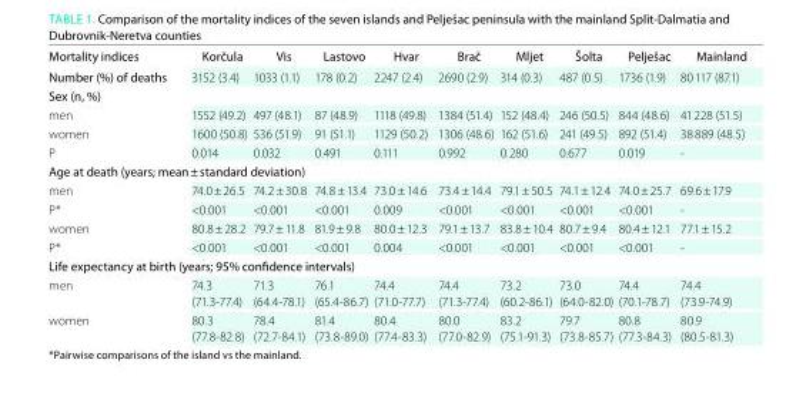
<table><thead><tr><td>Mortality indices</td><td>Korčula</td><td>Vis</td><td>lastovo</td><td>hvar</td><td>brač</td><td>Mljet</td><td>Šolta</td><td>Pelješac</td><td>Mainland</td></tr></thead><tbody><tr><td>number (%) of deaths</td><td>3152 (3.4)</td><td>1033 (1.1)</td><td>178 (0.2)</td><td>2247 (2.4)</td><td>2690 (2.9)</td><td>314 (0.3)</td><td>487 (0.5)</td><td>1736 (1.9)</td><td>80 117 (87.1)</td></tr><tr><td colspan="10">Sex (n, %)</td></tr><tr><td>men</td><td>1552 (49.2)</td><td>497 (48.1)</td><td>87 (48.9)</td><td>1118 (49.8)</td><td>1384 (51.4)</td><td>152 (48.4)</td><td>246 (50.5)</td><td>844 (48.6)</td><td>41 228 (51.5)</td></tr><tr><td>women</td><td>1600 (50.8)</td><td>536 (51.9)</td><td>91 (51.1)</td><td>1129 (50.2)</td><td>1306 (48.6)</td><td>162 (51.6)</td><td>241 (49.5)</td><td>892 (51.4)</td><td>38 889 (48.5)</td></tr><tr><td>P</td><td>0.014</td><td>0.032</td><td>0.491</td><td>0.111</td><td>0.992</td><td>0.280</td><td>0.677</td><td>0.019</td><td>-</td></tr><tr><td colspan="10">Age at death (years; mean ± standard deviation)</td></tr><tr><td>men</td><td>74.0 ± 26.5</td><td>74.2 ± 30.8</td><td>74.8 ± 13.4</td><td>73.0 ± 14.6</td><td>73.4 ± 14.4</td><td>79.1 ± 50.5</td><td>74.1 ± 12.4</td><td>74.0 ± 25.7</td><td>69.6 ± 17.9</td></tr><tr><td>P*</td><td>&lt;0.001</td><td>&lt;0.001</td><td>&lt;0.001</td><td>0.009</td><td>&lt;0.001</td><td>&lt;0.001</td><td>&lt;0.001</td><td>&lt;0.001</td><td>-</td></tr><tr><td>women</td><td>80.8 ± 28.2</td><td>79.7 ± 11.8</td><td>81.9 ± 9.8</td><td>80.0 ± 12.3</td><td>79.1 ± 13.7</td><td>83.8 ± 10.4</td><td>80.7 ± 9.4</td><td>80.4 ± 12.1</td><td>77.1 ± 15.2</td></tr><tr><td>P*</td><td>&lt;0.001</td><td>&lt;0.001</td><td>&lt;0.001</td><td>0.004</td><td>&lt;0.001</td><td>&lt;0.001</td><td>&lt;0.001</td><td>&lt;0.001</td><td>-</td></tr><tr><td colspan="10">life expectancy at birth (years; 95% confidence intervals)</td></tr><tr><td>men</td><td>74.3 (71.3-77.4)</td><td>71.3 (64.4-78.1)</td><td>76.1 (65.4-86.7)</td><td>74.4 (71.0-77.7)</td><td>74.4 (71.3-77.4)</td><td>73.2 (60.2-86.1)</td><td>73.0 (64.0-82.0)</td><td>74.4 (70.1-78.7)</td><td>74.4 (73.9-74.9)</td></tr><tr><td>women</td><td>80.3 (77.8-82.8)</td><td>78.4 (72.7-84.1)</td><td>81.4 (73.8-89.0)</td><td>80.4 (77.4-83.3)</td><td>80.0 (77.0-82.9)</td><td>83.2 (75.1-91.3)</td><td>79.7 (73.8-85.7)</td><td>80.8 (77.3-84.3)</td><td>80.9 (80.5-81.3)</td></tr></tbody></table>